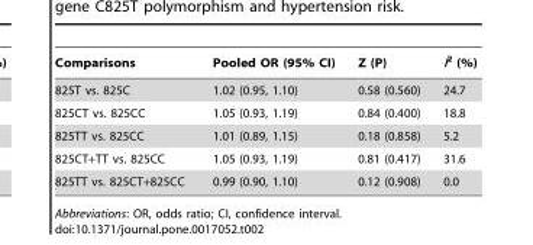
<table><thead><tr><td>Comparisons</td><td>Pooled OR (95% CI)</td><td>Z (P)</td><td>I<sup>2</sup> (%)</td></tr></thead><tbody><tr><td>825T vs. 825C</td><td>1.02 (0.95, 1.10)</td><td>0.58 (0.560)</td><td>24.7</td></tr><tr><td>825CT vs. 825CC</td><td>1.05 (0.93, 1.19)</td><td>0.84 (0.400)</td><td>18.8</td></tr><tr><td>825TT vs. 825CC</td><td>1.01 (0.89, 1.15)</td><td>0.18 (0.858)</td><td>5.2</td></tr><tr><td>825CT+TT vs. 825CC</td><td>1.05 (0.93, 1.19)</td><td>0.81 (0.417)</td><td>31.6</td></tr><tr><td>825TT vs. 825CT+825CC</td><td>0.99 (0.90, 1.10)</td><td>0.12 (0.908)</td><td>0.0</td></tr></tbody></table>